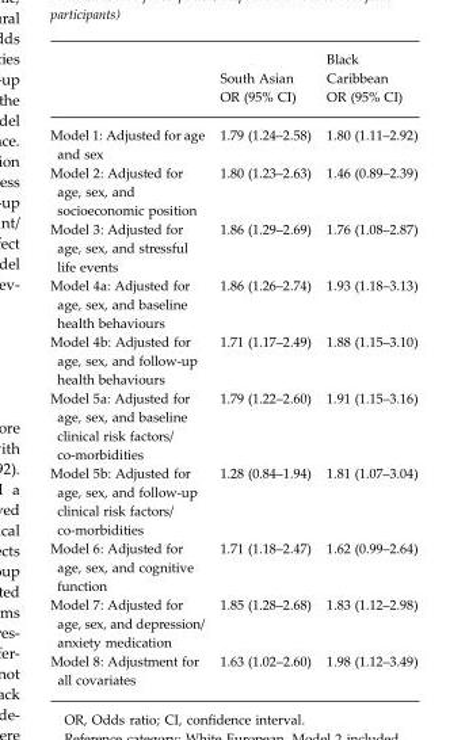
<table><thead><tr><td rowspan="2"></td><td rowspan="2">South Asian OR (95% CI)</td><td rowspan="2">Black Caribbean OR (95% CI)</td></tr><tr></tr></thead><tbody><tr><td>Model 1: Adjusted for age and sex</td><td>1.79 (1.24–2.58)</td><td>1.80 (1.11–2.92)</td></tr><tr><td>Model 2: Adjusted for age, sex, and socioeconomic position</td><td>1.80 (1.23–2.63)</td><td>1.46 (0.89–2.39)</td></tr><tr><td>Model 3: Adjusted for age, sex, and stressful life events</td><td>1.86 (1.29–2.69)</td><td>1.76 (1.08–2.87)</td></tr><tr><td>Model 4a: Adjusted for age, sex, and baseline health behaviours</td><td>1.86 (1.26–2.74)</td><td>1.93 (1.18–3.13)</td></tr><tr><td>Model 4b: Adjusted for age, sex, and follow-up health behaviours</td><td>1.71 (1.17–2.49)</td><td>1.88 (1.15–3.10)</td></tr><tr><td>Model 5a: Adjusted for age, sex, and baseline clinical risk factors/ co-morbidities</td><td>1.79 (1.22–2.60)</td><td>1.91 (1.15–3.16)</td></tr><tr><td>Model 5b: Adjusted for age, sex, and follow-up clinical risk factors/ co-morbidities</td><td>1.28 (0.84–1.94)</td><td>1.81 (1.07–3.04)</td></tr><tr><td>Model 6: Adjusted for age, sex, and cognitive function</td><td>1.71 (1.18–2.47)</td><td>1.62 (0.99–2.64)</td></tr><tr><td>Model 7: Adjusted for age, sex, and depression/ anxiety medication</td><td>1.85 (1.28–2.68)</td><td>1.83 (1.12–2.98)</td></tr><tr><td>Model 8: Adjustment for all covariates</td><td>1.63 (1.02–2.60)</td><td>1.98 (1.12–3.49)</td></tr></tbody></table>